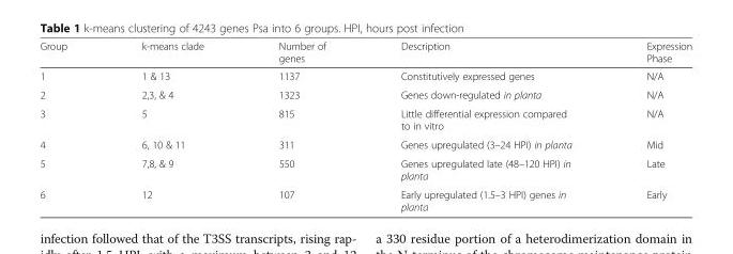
<table><thead><tr><td>Group</td><td>k-means clade</td><td>Number of genes</td><td>Description</td><td>Expression Phase</td></tr></thead><tbody><tr><td>1</td><td>1 &amp; 13</td><td>1137</td><td>Constitutively expressed genes</td><td>N/A</td></tr><tr><td>2</td><td>2,3, &amp; 4</td><td>1323</td><td>Genes down-regulated in planta</td><td>N/A</td></tr><tr><td>3</td><td>5</td><td>815</td><td>Little differential expression compared to in vitro</td><td>N/A</td></tr><tr><td>4</td><td>6, 10 &amp; 11</td><td>311</td><td>Genes upregulated (3–24 HPI) in planta</td><td>Mid</td></tr><tr><td>5</td><td>7,8, &amp; 9</td><td>550</td><td>Genes upregulated late (48–120 HPI) in planta</td><td>Late</td></tr><tr><td>6</td><td>12</td><td>107</td><td>Early upregulated (1.5–3 HPI) genes in planta</td><td>Early</td></tr></tbody></table>